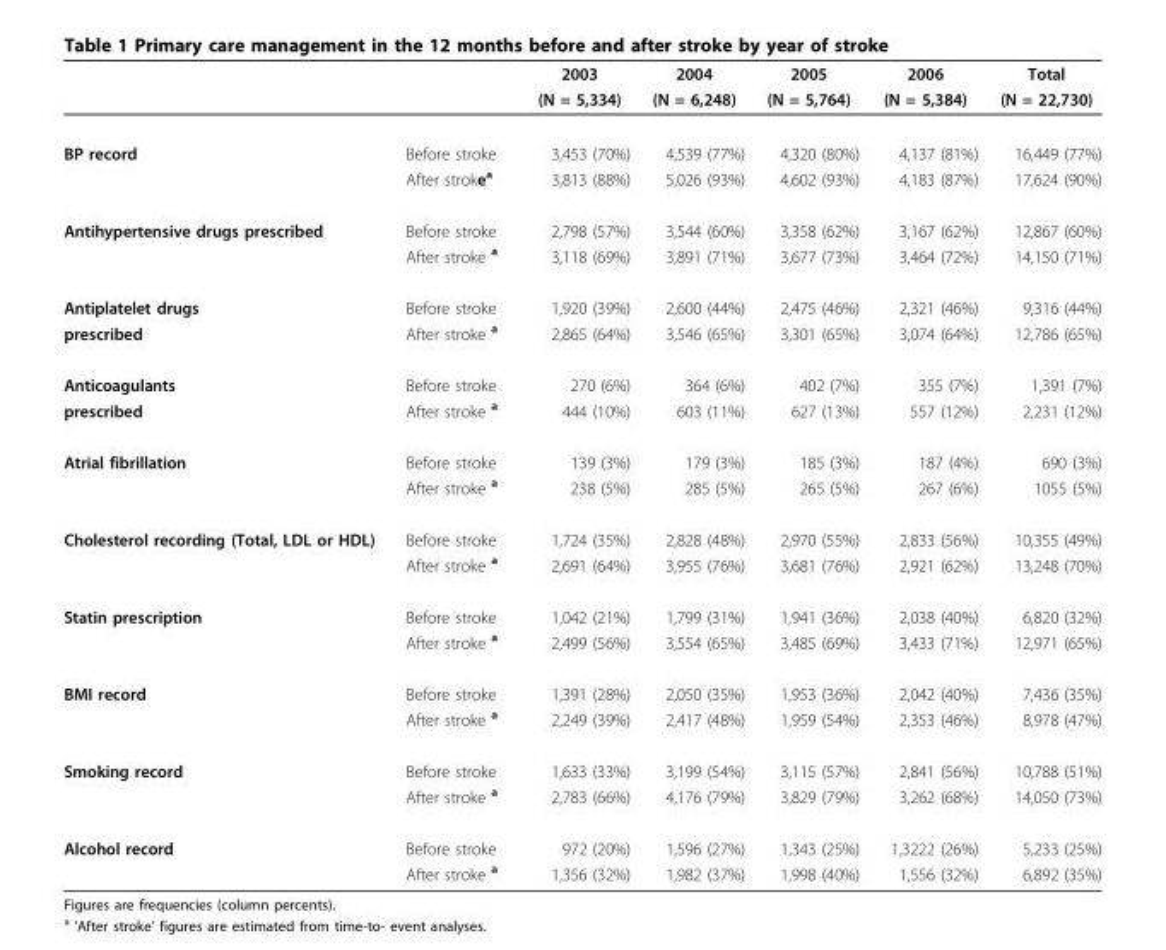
<table><thead><tr><td rowspan="2"></td><td rowspan="2"></td><td rowspan="2">2003 (N = 5,334)</td><td rowspan="2">2004 (N = 6,248)</td><td rowspan="2">2005 (N = 5,764)</td><td rowspan="2">2006 (N = 5,384)</td><td rowspan="2">Total (N = 22,730)</td></tr><tr></tr></thead><tbody><tr><td rowspan="2">BP record</td><td>Before stroke</td><td>3,453 (70%)</td><td>4,539 (77%)</td><td>4,320 (80%)</td><td>4,137 (81%)</td><td>16,449 (77%)</td></tr><tr><td>After stroke<sup>a</sup></td><td>3,813 (88%)</td><td>5,026 (93%)</td><td>4,602 (93%)</td><td>4,183 (87%)</td><td>17,624 (90%)</td></tr><tr><td rowspan="2">Antihypertensive drugs prescribed</td><td>Before stroke</td><td>2,798 (57%)</td><td>3,544 (60%)</td><td>3,358 (62%)</td><td>3,167 (62%)</td><td>12,867 (60%)</td></tr><tr><td>After stroke <sup>a</sup></td><td>3,118 (69%)</td><td>3,891 (71%)</td><td>3,677 (73%)</td><td>3,464 (72%)</td><td>14,150 (71%)</td></tr><tr><td>Antiplatelet drugs</td><td>Before stroke</td><td>1,920 (39%)</td><td>2,600 (44%)</td><td>2,475 (46%)</td><td>2,321 (46%)</td><td>9,316 (44%)</td></tr><tr><td>prescribed</td><td>After stroke <sup>a</sup></td><td>2,865 (64%)</td><td>3,546 (65%)</td><td>3,301 (65%)</td><td>3,074 (64%)</td><td>12,786 (65%)</td></tr><tr><td>Anticoagulants</td><td>Before stroke</td><td>270 (6%)</td><td>364 (6%)</td><td>402 (7%)</td><td>355 (7%)</td><td>1,391 (7%)</td></tr><tr><td>prescribed</td><td>After stroke <sup>a</sup></td><td>444 (10%)</td><td>603 (11%)</td><td>627 (13%)</td><td>557 (12%)</td><td>2,231 (12%)</td></tr><tr><td rowspan="2">Atrial fibrillation</td><td>Before stroke</td><td>139 (3%)</td><td>179 (3%)</td><td>185 (3%)</td><td>187 (4%)</td><td>690 (3%)</td></tr><tr><td>After stroke <sup>a</sup></td><td>238 (5%)</td><td>285 (5%)</td><td>265 (5%)</td><td>267 (6%)</td><td>1055 (5%)</td></tr><tr><td rowspan="2">Cholesterol recording (Total, LDL or HDL)</td><td>Before stroke</td><td>1,724 (35%)</td><td>2,828 (48%)</td><td>2,970 (55%)</td><td>2,833 (56%)</td><td>10,355 (49%)</td></tr><tr><td>After stroke <sup>a</sup></td><td>2,691 (64%)</td><td>3,955 (76%)</td><td>3,681 (76%)</td><td>2,921 (62%)</td><td>13,248 (70%)</td></tr><tr><td rowspan="2">Statin prescription</td><td>Before stroke</td><td>1,042 (21%)</td><td>1,799 (31%)</td><td>1,941 (36%)</td><td>2,038 (40%)</td><td>6,820 (32%)</td></tr><tr><td>After stroke <sup>a</sup></td><td>2,499 (56%)</td><td>3,554 (65%)</td><td>3,485 (69%)</td><td>3,433 (71%)</td><td>12,971 (65%)</td></tr><tr><td rowspan="2">BMI record</td><td>Before stroke</td><td>1,391 (28%)</td><td>2,050 (35%)</td><td>1,953 (36%)</td><td>2,042 (40%)</td><td>7,436 (35%)</td></tr><tr><td>After stroke <sup>a</sup></td><td>2,249 (39%)</td><td>2,417 (48%)</td><td>1,959 (54%)</td><td>2,353 (46%)</td><td>8,978 (47%)</td></tr><tr><td rowspan="2">Smoking record</td><td>Before stroke</td><td>1,633 (33%)</td><td>3,199 (54%)</td><td>3,115 (57%)</td><td>2,841 (56%)</td><td>10,788 (51%)</td></tr><tr><td>After stroke <sup>a</sup></td><td>2,783 (66%)</td><td>4,176 (79%)</td><td>3,829 (79%)</td><td>3,262 (68%)</td><td>14,050 (73%)</td></tr><tr><td rowspan="2">Alcohol record</td><td>Before stroke</td><td>972 (20%)</td><td>1,596 (27%)</td><td>1,343 (25%)</td><td>1,3222 (26%)</td><td>5,233 (25%)</td></tr><tr><td>After stroke <sup>a</sup></td><td>1,356 (32%)</td><td>1,982 (37%)</td><td>1,998 (40%)</td><td>1,556 (32%)</td><td>6,892 (35%)</td></tr></tbody></table>